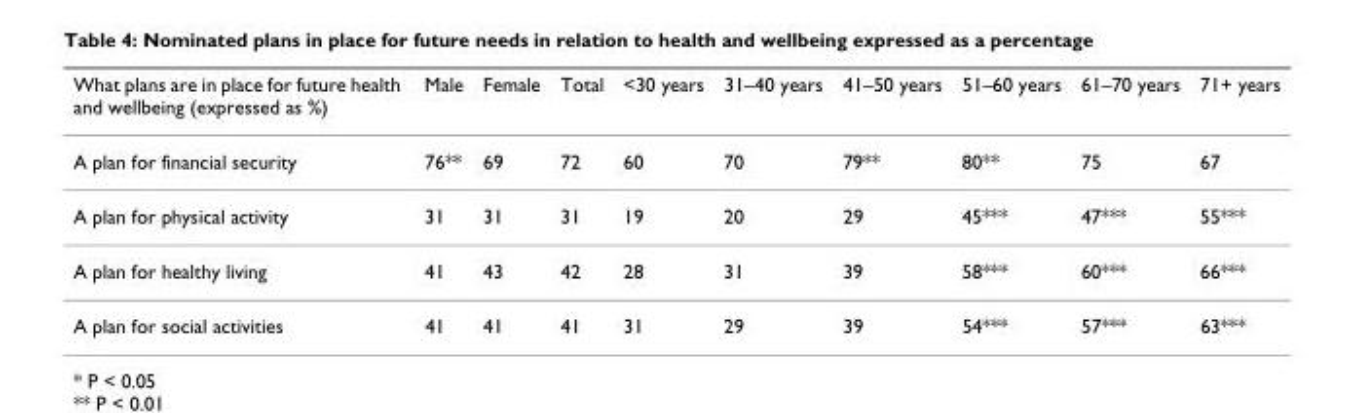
<table><thead><tr><td>What plans are in place for future health and wellbeing (expressed as %)</td><td>Male</td><td>Female</td><td>Total</td><td>&lt;30 years</td><td>31–40 years</td><td>41–50 years</td><td>51–60 years</td><td>61–70 years</td><td>71+ years</td></tr></thead><tbody><tr><td>A plan for financial security</td><td>76**</td><td>69</td><td>72</td><td>60</td><td>70</td><td>79**</td><td>80**</td><td>75</td><td>67</td></tr><tr><td>A plan for physical activity</td><td>31</td><td>31</td><td>31</td><td>19</td><td>20</td><td>29</td><td>45***</td><td>47***</td><td>55***</td></tr><tr><td>A plan for healthy living</td><td>41</td><td>43</td><td>42</td><td>28</td><td>31</td><td>39</td><td>58***</td><td>60***</td><td>66***</td></tr><tr><td>A plan for social activities</td><td>41</td><td>41</td><td>41</td><td>31</td><td>29</td><td>39</td><td>54***</td><td>57***</td><td>63***</td></tr></tbody></table>